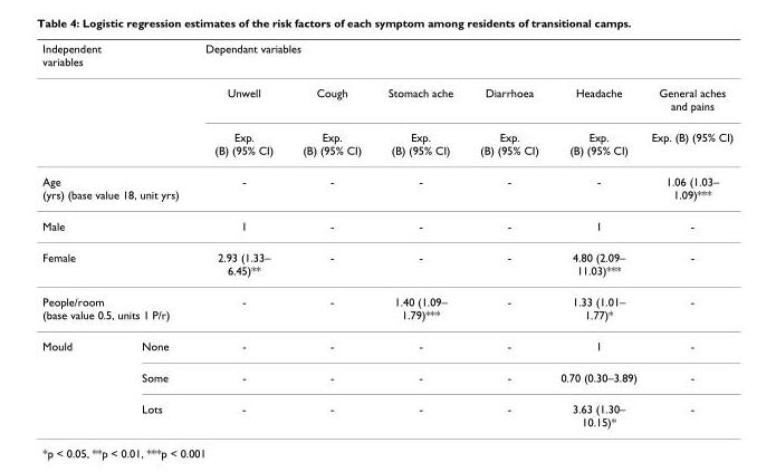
<table><thead><tr><td rowspan="2">Independent variables</td><td rowspan="2"></td><td colspan="6">Dependant variables</td></tr><tr><td>Unwell</td><td>Cough</td><td>Stomach ache</td><td>Diarrhoea</td><td>Headache</td><td>General aches and pains</td></tr></thead><tbody><tr><td></td><td></td><td>Exp. (B) (95% CI)</td><td>Exp. (B) (95% CI)</td><td>Exp. (B) (95% CI)</td><td>Exp. (B) (95% CI)</td><td>Exp. (B) (95% CI)</td><td>Exp. (B) (95% CI)</td></tr><tr><td colspan="2">Age (yrs) (base value 18, unit yrs)</td><td>-</td><td>-</td><td>-</td><td>-</td><td>-</td><td>1.06 (1.03– 1.09)***</td></tr><tr><td>Male</td><td></td><td>1</td><td>-</td><td>-</td><td>-</td><td>1</td><td>-</td></tr><tr><td>Female</td><td></td><td>2.93 (1.33– 6.45)**</td><td>-</td><td>-</td><td>-</td><td>4.80 (2.09– 11.03)***</td><td>-</td></tr><tr><td colspan="2">People/room (base value 0.5, units 1 P/r)</td><td>-</td><td>-</td><td>1.40 (1.09– 1.79)***</td><td>-</td><td>1.33 (1.01– 1.77)*</td><td>-</td></tr><tr><td rowspan="3">Mould</td><td>None</td><td>-</td><td>-</td><td>-</td><td>-</td><td>1</td><td>-</td></tr><tr><td>Some</td><td>-</td><td>-</td><td>-</td><td>-</td><td>0.70 (0.30–3.89)</td><td>-</td></tr><tr><td>Lots</td><td>-</td><td>-</td><td>-</td><td>-</td><td>3.63 (1.30– 10.15)*</td><td>-</td></tr></tbody></table>